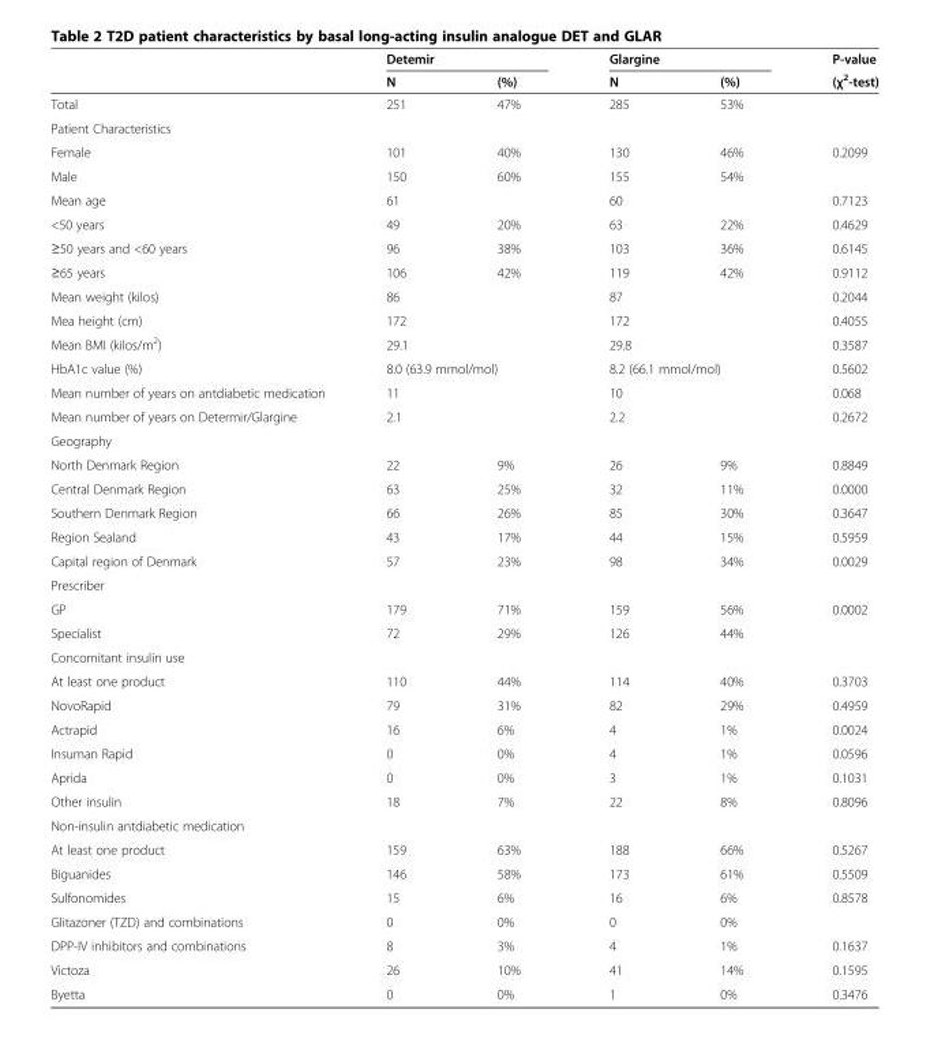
<table><thead><tr><td rowspan="2"></td><td colspan="2">Detemir</td><td colspan="2">Glargine</td><td rowspan="2">P-value (χ<sup>2</sup>-test)</td></tr><tr><td>N</td><td>(%)</td><td>N</td><td>(%)</td></tr></thead><tbody><tr><td>Total</td><td>251</td><td>47%</td><td>285</td><td>53%</td><td></td></tr><tr><td colspan="6">Patient Characteristics</td></tr><tr><td>Female</td><td>101</td><td>40%</td><td>130</td><td>46%</td><td>0.2099</td></tr><tr><td>Male</td><td>150</td><td>60%</td><td>155</td><td>54%</td><td></td></tr><tr><td>Mean age</td><td>61</td><td></td><td>60</td><td></td><td>0.7123</td></tr><tr><td>&lt;50 years</td><td>49</td><td>20%</td><td>63</td><td>22%</td><td>0.4629</td></tr><tr><td>≥50 years and &lt;60 years</td><td>96</td><td>38%</td><td>103</td><td>36%</td><td>0.6145</td></tr><tr><td>≥65 years</td><td>106</td><td>42%</td><td>119</td><td>42%</td><td>0.9112</td></tr><tr><td>Mean weight (kilos)</td><td>86</td><td></td><td>87</td><td></td><td>0.2044</td></tr><tr><td>Mea height (cm)</td><td>172</td><td></td><td>172</td><td></td><td>0.4055</td></tr><tr><td>Mean BMI (kilos/m<sup>2</sup>)</td><td>29.1</td><td></td><td>29.8</td><td></td><td>0.3587</td></tr><tr><td>HbA1c value (%)</td><td colspan="2">8.0 (63.9 mmol/mol)</td><td colspan="2">8.2 (66.1 mmol/mol)</td><td>0.5602</td></tr><tr><td>Mean number of years on antdiabetic medication</td><td>11</td><td></td><td>10</td><td></td><td>0.068</td></tr><tr><td>Mean number of years on Determir/Glargine</td><td>2.1</td><td></td><td>2.2</td><td></td><td>0.2672</td></tr><tr><td colspan="6">Geography</td></tr><tr><td>North Denmark Region</td><td>22</td><td>9%</td><td>26</td><td>9%</td><td>0.8849</td></tr><tr><td>Central Denmark Region</td><td>63</td><td>25%</td><td>32</td><td>11%</td><td>0.0000</td></tr><tr><td>Southern Denmark Region</td><td>66</td><td>26%</td><td>85</td><td>30%</td><td>0.3647</td></tr><tr><td>Region Sealand</td><td>43</td><td>17%</td><td>44</td><td>15%</td><td>0.5959</td></tr><tr><td>Capital region of Denmark</td><td>57</td><td>23%</td><td>98</td><td>34%</td><td>0.0029</td></tr><tr><td colspan="6">Prescriber</td></tr><tr><td>GP</td><td>179</td><td>71%</td><td>159</td><td>56%</td><td>0.0002</td></tr><tr><td>Specialist</td><td>72</td><td>29%</td><td>126</td><td>44%</td><td></td></tr><tr><td colspan="6">Concomitant insulin use</td></tr><tr><td>At least one product</td><td>110</td><td>44%</td><td>114</td><td>40%</td><td>0.3703</td></tr><tr><td>NovoRapid</td><td>79</td><td>31%</td><td>82</td><td>29%</td><td>0.4959</td></tr><tr><td>Actrapid</td><td>16</td><td>6%</td><td>4</td><td>1%</td><td>0.0024</td></tr><tr><td>Insuman Rapid</td><td>0</td><td>0%</td><td>4</td><td>1%</td><td>0.0596</td></tr><tr><td>Aprida</td><td>0</td><td>0%</td><td>3</td><td>1%</td><td>0.1031</td></tr><tr><td>Other insulin</td><td>18</td><td>7%</td><td>22</td><td>8%</td><td>0.8096</td></tr><tr><td colspan="6">Non-insulin antdiabetic medication</td></tr><tr><td>At least one product</td><td>159</td><td>63%</td><td>188</td><td>66%</td><td>0.5267</td></tr><tr><td>Biguanides</td><td>146</td><td>58%</td><td>173</td><td>61%</td><td>0.5509</td></tr><tr><td>Sulfonomides</td><td>15</td><td>6%</td><td>16</td><td>6%</td><td>0.8578</td></tr><tr><td>Glitazoner (TZD) and combinations</td><td>0</td><td>0%</td><td>0</td><td>0%</td><td></td></tr><tr><td>DPP-IV inhibitors and combinations</td><td>8</td><td>3%</td><td>4</td><td>1%</td><td>0.1637</td></tr><tr><td>Victoza</td><td>26</td><td>10%</td><td>41</td><td>14%</td><td>0.1595</td></tr><tr><td>Byetta</td><td>0</td><td>0%</td><td>1</td><td>0%</td><td>0.3476</td></tr></tbody></table>